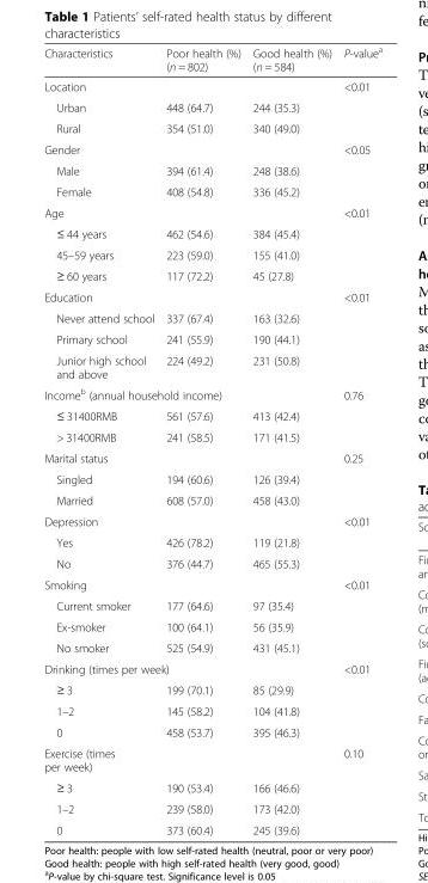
<table><thead><tr><td>Characteristics</td><td>Poor health (%) (n = 802)</td><td>Good health (%) (n = 584)</td><td>P-value<sup>a</sup></td></tr></thead><tbody><tr><td>Location</td><td></td><td></td><td>&lt;0.01</td></tr><tr><td>Urban</td><td>448 (64.7)</td><td>244 (35.3)</td><td></td></tr><tr><td>Rural</td><td>354 (51.0)</td><td>340 (49.0)</td><td></td></tr><tr><td>Gender</td><td></td><td></td><td>&lt;0.05</td></tr><tr><td>Male</td><td>394 (61.4)</td><td>248 (38.6)</td><td></td></tr><tr><td>Female</td><td>408 (54.8)</td><td>336 (45.2)</td><td></td></tr><tr><td>Age</td><td></td><td></td><td>&lt;0.01</td></tr><tr><td>≤ 44 years</td><td>462 (54.6)</td><td>384 (45.4)</td><td></td></tr><tr><td>45–59 years</td><td>223 (59.0)</td><td>155 (41.0)</td><td></td></tr><tr><td>≥ 60 years</td><td>117 (72.2)</td><td>45 (27.8)</td><td></td></tr><tr><td>Education</td><td></td><td></td><td>&lt;0.01</td></tr><tr><td>Never attend school</td><td>337 (67.4)</td><td>163 (32.6)</td><td></td></tr><tr><td>Primary school</td><td>241 (55.9)</td><td>190 (44.1)</td><td></td></tr><tr><td>Junior high school and above</td><td>224 (49.2)</td><td>231 (50.8)</td><td></td></tr><tr><td colspan="2">Income<sup>b</sup> (annual household income)</td><td></td><td>0.76</td></tr><tr><td>≤ 31400RMB</td><td>561 (57.6)</td><td>413 (42.4)</td><td></td></tr><tr><td>&gt; 31400RMB</td><td>241 (58.5)</td><td>171 (41.5)</td><td></td></tr><tr><td>Marital status</td><td></td><td></td><td>0.25</td></tr><tr><td>Singled</td><td>194 (60.6)</td><td>126 (39.4)</td><td></td></tr><tr><td>Married</td><td>608 (57.0)</td><td>458 (43.0)</td><td></td></tr><tr><td>Depression</td><td></td><td></td><td>&lt;0.01</td></tr><tr><td>Yes</td><td>426 (78.2)</td><td>119 (21.8)</td><td></td></tr><tr><td>No</td><td>376 (44.7)</td><td>465 (55.3)</td><td></td></tr><tr><td>Smoking</td><td></td><td></td><td>&lt;0.01</td></tr><tr><td>Current smoker</td><td>177 (64.6)</td><td>97 (35.4)</td><td></td></tr><tr><td>Ex-smoker</td><td>100 (64.1)</td><td>56 (35.9)</td><td></td></tr><tr><td>No smoker</td><td>525 (54.9)</td><td>431 (45.1)</td><td></td></tr><tr><td colspan="2">Drinking (times per week)</td><td></td><td>&lt;0.01</td></tr><tr><td>≥ 3</td><td>199 (70.1)</td><td>85 (29.9)</td><td></td></tr><tr><td>1–2</td><td>145 (58.2)</td><td>104 (41.8)</td><td></td></tr><tr><td>0</td><td>458 (53.7)</td><td>395 (46.3)</td><td></td></tr><tr><td>Exercise (times per week)</td><td></td><td></td><td>0.10</td></tr><tr><td>≥ 3</td><td>190 (53.4)</td><td>166 (46.6)</td><td></td></tr><tr><td>1–2</td><td>239 (58.0)</td><td>173 (42.0)</td><td></td></tr><tr><td>0</td><td>373 (60.4)</td><td>245 (39.6)</td><td></td></tr></tbody></table>